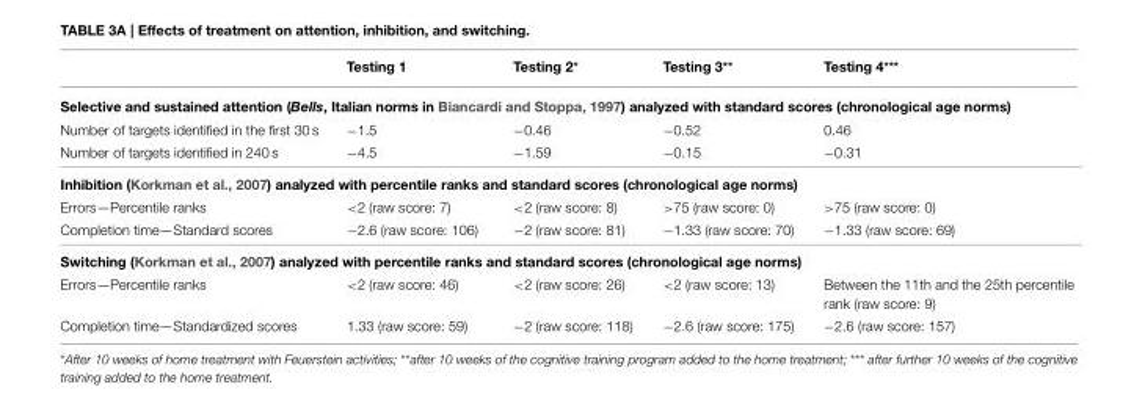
<table><thead><tr><td></td><td>Testing 1</td><td>Testing 2*</td><td>Testing 3**</td><td>Testing 4***</td></tr></thead><tbody><tr><td colspan="5">Selective and sustained attention (Bells, Italian norms in Biancardi and Stoppa, 1997) analyzed with standard scores (chronological age norms)</td></tr><tr><td>Number of targets identified in the first 30 s</td><td>−1.5</td><td>−0.46</td><td>−0.52</td><td>0.46</td></tr><tr><td>Number of targets identified in 240 s</td><td>−4.5</td><td>−1.59</td><td>−0.15</td><td>−0.31</td></tr><tr><td colspan="5">Inhibition (Korkman et al., 2007) analyzed with percentile ranks and standard scores (chronological age norms)</td></tr><tr><td>Errors—Percentile ranks</td><td>&lt;2 (raw score: 7)</td><td>&lt;2 (raw score: 8)</td><td>&gt;75 (raw score: 0)</td><td>&gt;75 (raw score: 0)</td></tr><tr><td>Completion time—Standard scores</td><td>−2.6 (raw score: 106)</td><td>−2 (raw score: 81)</td><td>−1.33 (raw score: 70)</td><td>−1.33 (raw score: 69)</td></tr><tr><td colspan="5">Switching (Korkman et al., 2007) analyzed with percentile ranks and standard scores (chronological age norms)</td></tr><tr><td>Errors—Percentile ranks</td><td>&lt;2 (raw score: 46)</td><td>&lt;2 (raw score: 26)</td><td>&lt;2 (raw score: 13)</td><td>Between the 11th and the 25th percentile rank (raw score: 9)</td></tr><tr><td>Completion time—Standardized scores</td><td>1.33 (raw score: 59)</td><td>−2 (raw score: 118)</td><td>−2.6 (raw score: 175)</td><td>−2.6 (raw score: 157)</td></tr></tbody></table>